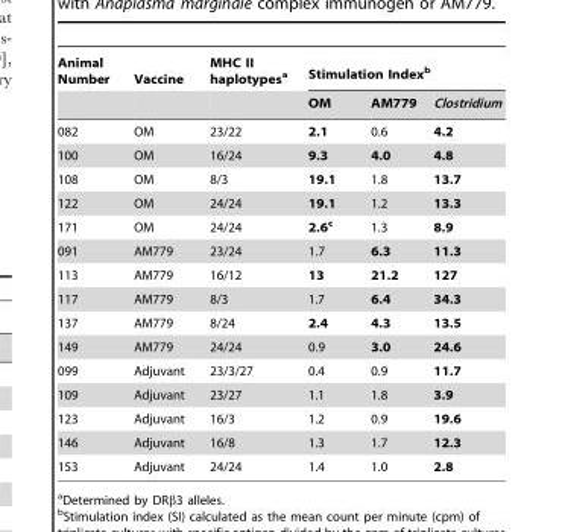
<table><thead><tr><td rowspan="2">Animal Number</td><td rowspan="2">Vaccine</td><td rowspan="2">MHC II haplotypes<sup>a</sup></td><td colspan="3">Stimulation Index<sup>b</sup></td></tr><tr><td>OM</td><td>AM779</td><td>Clostridium</td></tr></thead><tbody><tr><td>082</td><td>OM</td><td>23/22</td><td>2.1</td><td>0.6</td><td>4.2</td></tr><tr><td>100</td><td>OM</td><td>16/24</td><td>9.3</td><td>4.0</td><td>4.8</td></tr><tr><td>108</td><td>OM</td><td>8/3</td><td>19.1</td><td>1.8</td><td>13.7</td></tr><tr><td>122</td><td>OM</td><td>24/24</td><td>19.1</td><td>1.2</td><td>13.3</td></tr><tr><td>171</td><td>OM</td><td>24/24</td><td>2.6c</td><td>1.3</td><td>8.9</td></tr><tr><td>091</td><td>AM779</td><td>23/24</td><td>1.7</td><td>6.3</td><td>11.3</td></tr><tr><td>113</td><td>AM779</td><td>16/12</td><td>13</td><td>21.2</td><td>127</td></tr><tr><td>117</td><td>AM779</td><td>8/3</td><td>1.7</td><td>6.4</td><td>34.3</td></tr><tr><td>137</td><td>AM779</td><td>8/24</td><td>2.4</td><td>4.3</td><td>13.5</td></tr><tr><td>149</td><td>AM779</td><td>24/24</td><td>0.9</td><td>3.0</td><td>24.6</td></tr><tr><td>099</td><td>Adjuvant</td><td>23/3/27</td><td>0.4</td><td>0.9</td><td>11.7</td></tr><tr><td>109</td><td>Adjuvant</td><td>23/27</td><td>1.1</td><td>1.8</td><td>3.9</td></tr><tr><td>123</td><td>Adjuvant</td><td>16/3</td><td>1.2</td><td>0.9</td><td>19.6</td></tr><tr><td>146</td><td>Adjuvant</td><td>16/8</td><td>1.3</td><td>1.7</td><td>12.3</td></tr><tr><td>153</td><td>Adjuvant</td><td>24/24</td><td>1.4</td><td>1.0</td><td>2.8</td></tr></tbody></table>